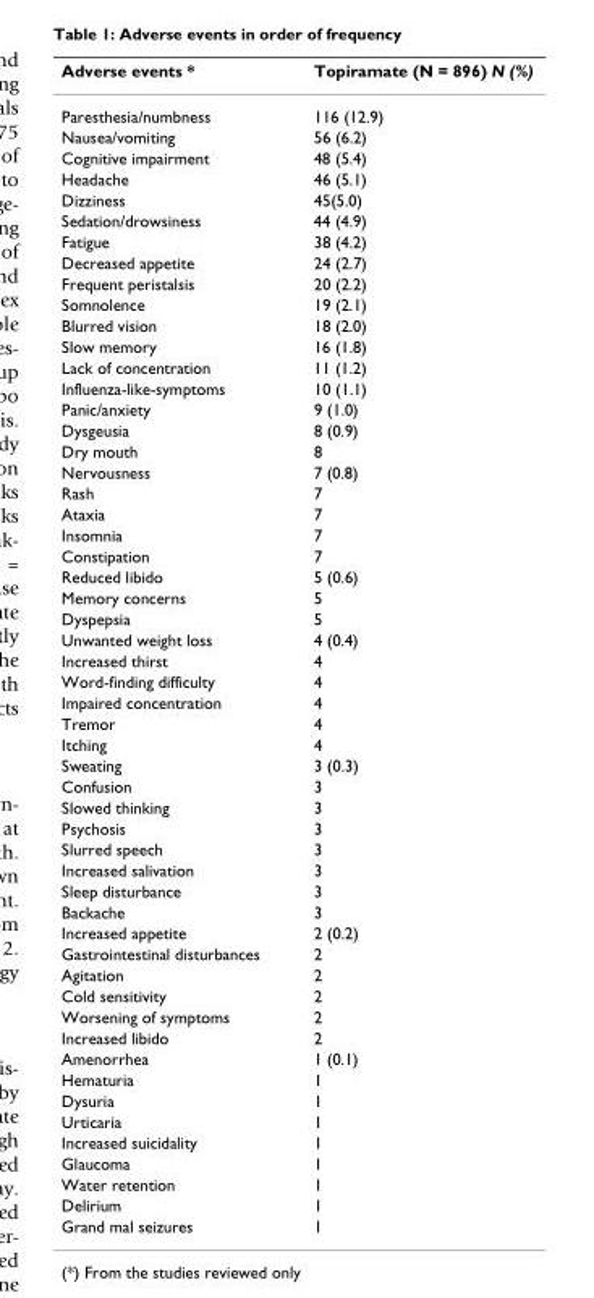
<table><thead><tr><td>Adverse events *</td><td>Topiramate (N = 896) N (%)</td></tr></thead><tbody><tr><td>Paresthesia/numbness</td><td>116 (12.9)</td></tr><tr><td>Nausea/vomiting</td><td>56 (6.2)</td></tr><tr><td>Cognitive impairment</td><td>48 (5.4)</td></tr><tr><td>Headache</td><td>46 (5.1)</td></tr><tr><td>Dizziness</td><td>45(5.0)</td></tr><tr><td>Sedation/drowsiness</td><td>44 (4.9)</td></tr><tr><td>Fatigue</td><td>38 (4.2)</td></tr><tr><td>Decreased appetite</td><td>24 (2.7)</td></tr><tr><td>Frequent peristalsis</td><td>20 (2.2)</td></tr><tr><td>Somnolence</td><td>19 (2.1)</td></tr><tr><td>Blurred vision</td><td>18 (2.0)</td></tr><tr><td>Slow memory</td><td>16 (1.8)</td></tr><tr><td>Lack of concentration</td><td>11 (1.2)</td></tr><tr><td>Influenza-like-symptoms</td><td>10 (1.1)</td></tr><tr><td>Panic/anxiety</td><td>9 (1.0)</td></tr><tr><td>Dysgeusia</td><td>8 (0.9)</td></tr><tr><td>Dry mouth</td><td>8</td></tr><tr><td>Nervousness</td><td>7 (0.8)</td></tr><tr><td>Rash</td><td>7</td></tr><tr><td>Ataxia</td><td>7</td></tr><tr><td>Insomnia</td><td>7</td></tr><tr><td>Constipation</td><td>7</td></tr><tr><td>Reduced libido</td><td>5 (0.6)</td></tr><tr><td>Memory concerns</td><td>5</td></tr><tr><td>Dyspepsia</td><td>5</td></tr><tr><td>Unwanted weight loss</td><td>4 (0.4)</td></tr><tr><td>Increased thirst</td><td>4</td></tr><tr><td>Word-finding difficulty</td><td>4</td></tr><tr><td>Impaired concentration</td><td>4</td></tr><tr><td>Tremor</td><td>4</td></tr><tr><td>Itching</td><td>4</td></tr><tr><td>Sweating</td><td>3 (0.3)</td></tr><tr><td>Confusion</td><td>3</td></tr><tr><td>Slowed thinking</td><td>3</td></tr><tr><td>Psychosis</td><td>3</td></tr><tr><td>Slurred speech</td><td>3</td></tr><tr><td>Increased salivation</td><td>3</td></tr><tr><td>Sleep disturbance</td><td>3</td></tr><tr><td>Backache</td><td>3</td></tr><tr><td>Increased appetite</td><td>2 (0.2)</td></tr><tr><td>Gastrointestinal disturbances</td><td>2</td></tr><tr><td>Agitation</td><td>2</td></tr><tr><td>Cold sensitivity</td><td>2</td></tr><tr><td>Worsening of symptoms</td><td>2</td></tr><tr><td>Increased libido</td><td>2</td></tr><tr><td>Amenorrhea</td><td>1 (0.1)</td></tr><tr><td>Hematuria</td><td>1</td></tr><tr><td>Dysuria</td><td>1</td></tr><tr><td>Urticaria</td><td>1</td></tr><tr><td>Increased suicidality</td><td>1</td></tr><tr><td>Glaucoma</td><td>1</td></tr><tr><td>Water retention</td><td>1</td></tr><tr><td>Delirium</td><td>1</td></tr><tr><td>Grand mal seizures</td><td>1</td></tr></tbody></table>